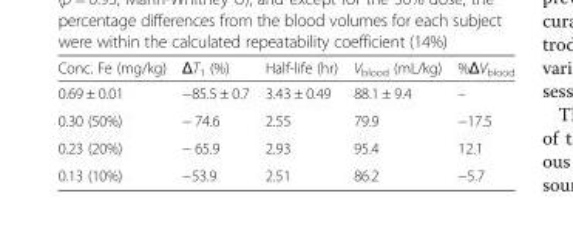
<table><thead><tr><td>Conc. Fe (mg/kg)</td><td>ΔT<sub>1</sub> (%)</td><td>Half-life (hr)</td><td>V<sub>blood</sub> (mL/kg)</td><td>%ΔV<sub>blood</sub></td></tr></thead><tbody><tr><td>0.69 ± 0.01</td><td>−85.5 ± 0.7</td><td>3.43 ± 0.49</td><td>88.1 ± 9.4</td><td>–</td></tr><tr><td>0.30 (50%)</td><td>− 74.6</td><td>2.55</td><td>79.9</td><td>−17.5</td></tr><tr><td>0.23 (20%)</td><td>− 65.9</td><td>2.93</td><td>95.4</td><td>12.1</td></tr><tr><td>0.13 (10%)</td><td>−53.9</td><td>2.51</td><td>86.2</td><td>−5.7</td></tr></tbody></table>